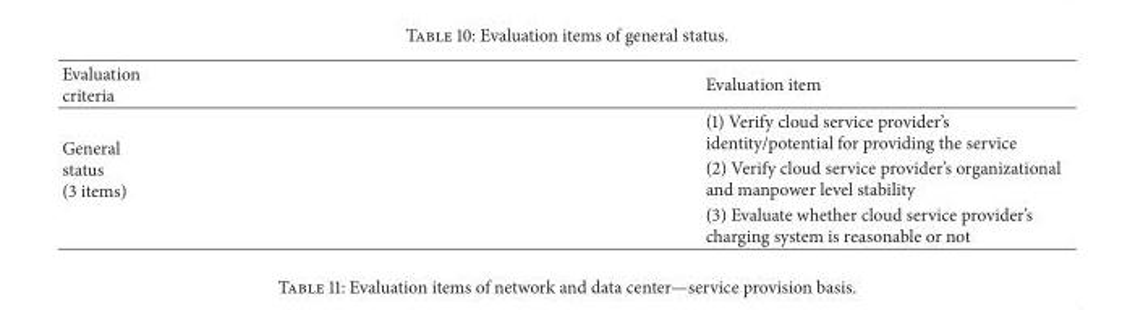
<table><thead><tr><td>Evaluation criteria</td><td>Evaluation item</td></tr></thead><tbody><tr><td rowspan="3">General status (3 items)</td><td>(1) Verify cloud service provider’s identity/potential for providing the service</td></tr><tr><td>(2) Verify cloud service provider’s organizational and manpower level stability</td></tr><tr><td>(3) Evaluate whether cloud service provider’s charging system is reasonable or not</td></tr></tbody></table>